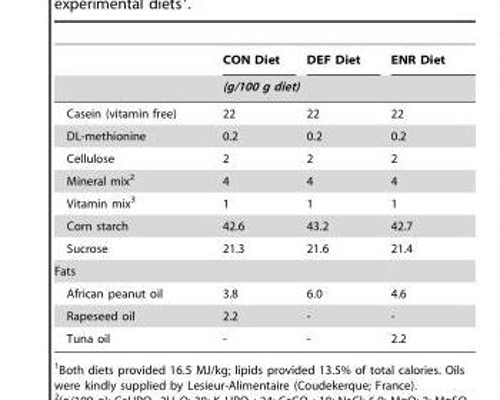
<table><thead><tr><td rowspan="2"></td><td>CON Diet</td><td>DEF Diet</td><td>ENR Diet</td></tr><tr><td colspan="3">(g/100 g diet)</td></tr></thead><tbody><tr><td>Casein (vitamin free)</td><td>22</td><td>22</td><td>22</td></tr><tr><td>DL-methionine</td><td>0.2</td><td>0.2</td><td>0.2</td></tr><tr><td>Cellulose</td><td>2</td><td>2</td><td>2</td></tr><tr><td>Mineral mix<sup>2</sup></td><td>4</td><td>4</td><td>4</td></tr><tr><td>Vitamin mix<sup>3</sup></td><td>1</td><td>1</td><td>1</td></tr><tr><td>Corn starch</td><td>42.6</td><td>43.2</td><td>42.7</td></tr><tr><td>Sucrose</td><td>21.3</td><td>21.6</td><td>21.4</td></tr><tr><td colspan="4">Fats</td></tr><tr><td>African peanut oil</td><td>3.8</td><td>6.0</td><td>4.6</td></tr><tr><td>Rapeseed oil</td><td>2.2</td><td>-</td><td>-</td></tr><tr><td>Tuna oil</td><td>-</td><td>-</td><td>2.2</td></tr></tbody></table>